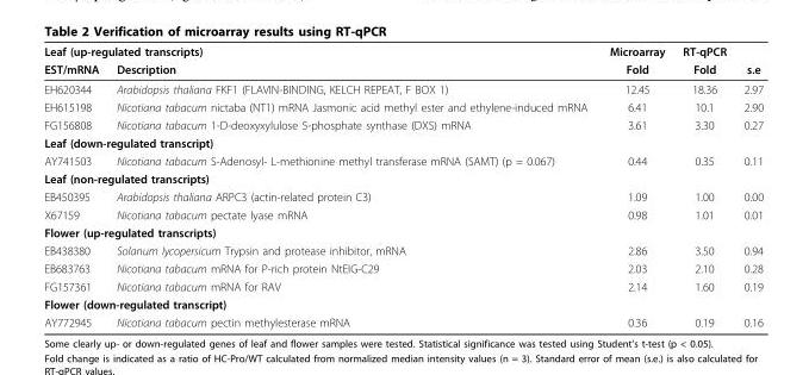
<table><thead><tr><td colspan="2">Leaf (up-regulated transcripts)</td><td rowspan="2">Microarray Fold</td><td rowspan="2">RT-qPCR Fold</td><td rowspan="2">s.e</td></tr><tr><td>EST/mRNA</td><td>Description</td></tr></thead><tbody><tr><td>EH620344</td><td>Arabidopsis thaliana FKF1 (FLAVIN-BINDING, KELCH REPEAT, F BOX 1)</td><td>12.45</td><td>18.36</td><td>2.97</td></tr><tr><td>EH615198</td><td>Nicotiana tabacum nictaba (NT1) mRNA Jasmonic acid methyl ester and ethylene-induced mRNA</td><td>6.41</td><td>10.1</td><td>2.90</td></tr><tr><td>FG156808</td><td>Nicotiana tabacum 1-D-deoxyxylulose 5-phosphate synthase (DXS) mRNA</td><td>3.61</td><td>3.30</td><td>0.27</td></tr><tr><td colspan="5">Leaf (down-regulated transcript)</td></tr><tr><td>AY741503</td><td>Nicotiana tabacum S-Adenosyl- L-methionine methyl transferase mRNA (SAMT) (p = 0.067)</td><td>0.44</td><td>0.35</td><td>0.11</td></tr><tr><td colspan="5">Leaf (non-regulated transcripts)</td></tr><tr><td>EB450395</td><td>Arabidopsis thaliana ARPC3 (actin-related protein C3)</td><td>1.09</td><td>1.00</td><td>0.00</td></tr><tr><td>X67159</td><td>Nicotiana tabacum pectate lyase mRNA</td><td>0.98</td><td>1.01</td><td>0.01</td></tr><tr><td colspan="5">Flower (up-regulated transcripts)</td></tr><tr><td>EB438380</td><td>Solanum lycopersicum Trypsin and protease inhibitor, mRNA</td><td>2.86</td><td>3.50</td><td>0.94</td></tr><tr><td>EB683763</td><td>Nicotiana tabacum mRNA for P-rich protein NtEIG-C29</td><td>2.03</td><td>2.10</td><td>0.28</td></tr><tr><td>FG157361</td><td>Nicotiana tabacum mRNA for RAV</td><td>2.14</td><td>1.60</td><td>0.19</td></tr><tr><td colspan="5">Flower (down-regulated transcript)</td></tr><tr><td>AY772945</td><td>Nicotiana tabacum pectin methylesterase mRNA</td><td>0.36</td><td>0.19</td><td>0.16</td></tr></tbody></table>